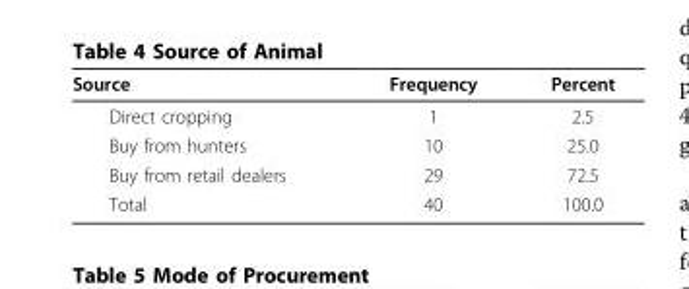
<table><thead><tr><td>Source</td><td>Frequency</td><td>Percent</td></tr></thead><tbody><tr><td>Direct cropping</td><td>1</td><td>2.5</td></tr><tr><td>Buy from hunters</td><td>10</td><td>25.0</td></tr><tr><td>Buy from retail dealers</td><td>29</td><td>72.5</td></tr><tr><td>Total</td><td>40</td><td>100.0</td></tr></tbody></table>